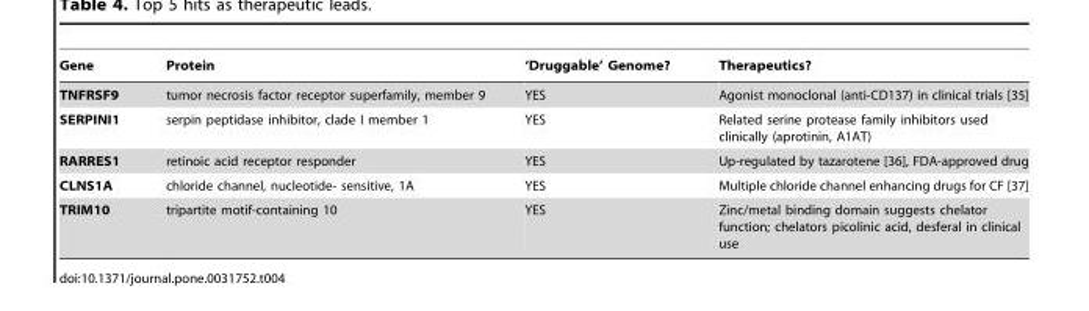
<table><thead><tr><td>Gene</td><td>Protein</td><td>‘Druggable’ Genome?</td><td>Therapeutics?</td></tr></thead><tbody><tr><td>TNFRSF9</td><td>tumor necrosis factor receptor superfamily, member 9</td><td>YES</td><td>Agonist monoclonal (anti-CD137) in clinical trials [35]</td></tr><tr><td>SERPINI1</td><td>serpin peptidase inhibitor, clade I member 1</td><td>YES</td><td>Related serine protease family inhibitors used clinically (aprotinin, A1AT)</td></tr><tr><td>RARRES1</td><td>retinoic acid receptor responder</td><td>YES</td><td>Up-regulated by tazarotene [36], FDA-approved drug</td></tr><tr><td>CLNS1A</td><td>chloride channel, nucleotide- sensitive, 1A</td><td>YES</td><td>Multiple chloride channel enhancing drugs for CF [37]</td></tr><tr><td>TRIM10</td><td>tripartite motif-containing 10</td><td>YES</td><td>Zinc/metal binding domain suggests chelator function; chelators picolinic acid, desferal in clinical use</td></tr></tbody></table>